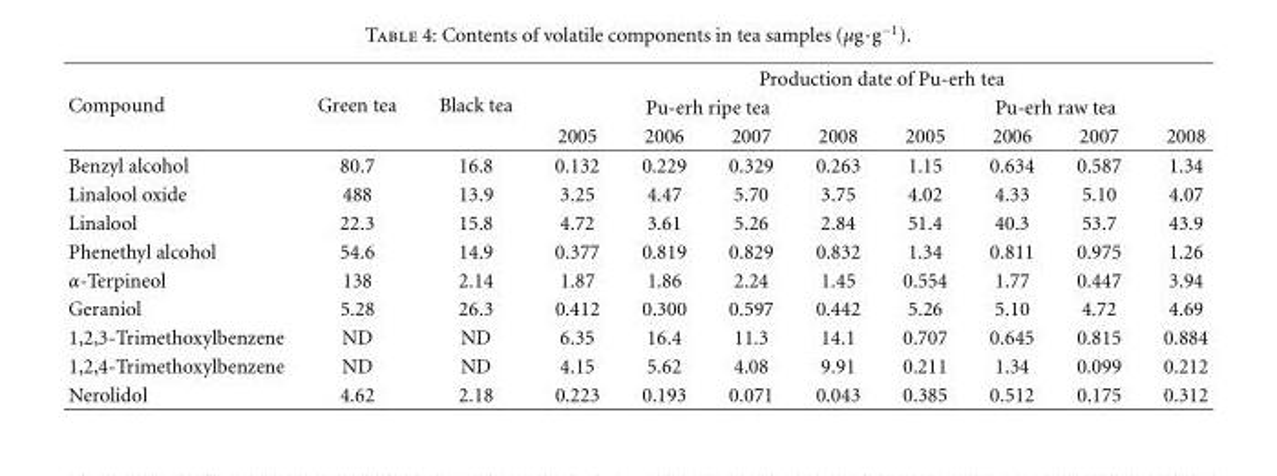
<table><thead><tr><td rowspan="3">Compound</td><td rowspan="3">Green tea</td><td rowspan="3">Black tea</td><td colspan="8">Production date of Pu-erh tea</td></tr><tr><td colspan="4">Pu-erh ripe tea</td><td colspan="4">Pu-erh raw tea</td></tr><tr><td>2005</td><td>2006</td><td>2007</td><td>2008</td><td>2005</td><td>2006</td><td>2007</td><td>2008</td></tr></thead><tbody><tr><td>Benzyl alcohol</td><td>80.7</td><td>16.8</td><td>0.132</td><td>0.229</td><td>0.329</td><td>0.263</td><td>1.15</td><td>0.634</td><td>0.587</td><td>1.34</td></tr><tr><td>Linalool oxide</td><td>488</td><td>13.9</td><td>3.25</td><td>4.47</td><td>5.70</td><td>3.75</td><td>4.02</td><td>4.33</td><td>5.10</td><td>4.07</td></tr><tr><td>Linalool</td><td>22.3</td><td>15.8</td><td>4.72</td><td>3.61</td><td>5.26</td><td>2.84</td><td>51.4</td><td>40.3</td><td>53.7</td><td>43.9</td></tr><tr><td>Phenethyl alcohol</td><td>54.6</td><td>14.9</td><td>0.377</td><td>0.819</td><td>0.829</td><td>0.832</td><td>1.34</td><td>0.811</td><td>0.975</td><td>1.26</td></tr><tr><td>α-Terpineol</td><td>138</td><td>2.14</td><td>1.87</td><td>1.86</td><td>2.24</td><td>1.45</td><td>0.554</td><td>1.77</td><td>0.447</td><td>3.94</td></tr><tr><td>Geraniol</td><td>5.28</td><td>26.3</td><td>0.412</td><td>0.300</td><td>0.597</td><td>0.442</td><td>5.26</td><td>5.10</td><td>4.72</td><td>4.69</td></tr><tr><td>1,2,3-Trimethoxylbenzene</td><td>ND</td><td>ND</td><td>6.35</td><td>16.4</td><td>11.3</td><td>14.1</td><td>0.707</td><td>0.645</td><td>0.815</td><td>0.884</td></tr><tr><td>1,2,4-Trimethoxylbenzene</td><td>ND</td><td>ND</td><td>4.15</td><td>5.62</td><td>4.08</td><td>9.91</td><td>0.211</td><td>1.34</td><td>0.099</td><td>0.212</td></tr><tr><td>Nerolidol</td><td>4.62</td><td>2.18</td><td>0.223</td><td>0.193</td><td>0.071</td><td>0.043</td><td>0.385</td><td>0.512</td><td>0.175</td><td>0.312</td></tr></tbody></table>